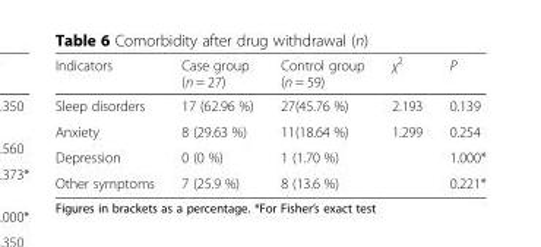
<table><thead><tr><td>Indicators</td><td>Case group (n = 27)</td><td>Control group (n = 59)</td><td>χ<sup>2</sup></td><td>P</td></tr></thead><tbody><tr><td>Sleep disorders</td><td>17 (62.96 %)</td><td>27(45.76 %)</td><td>2.193</td><td>0.139</td></tr><tr><td>Anxiety</td><td>8 (29.63 %)</td><td>11(18.64 %)</td><td>1.299</td><td>0.254</td></tr><tr><td>Depression</td><td>0 (0 %)</td><td>1 (1.70 %)</td><td></td><td>1.000*</td></tr><tr><td>Other symptoms</td><td>7 (25.9 %)</td><td>8 (13.6 %)</td><td></td><td>0.221*</td></tr></tbody></table>